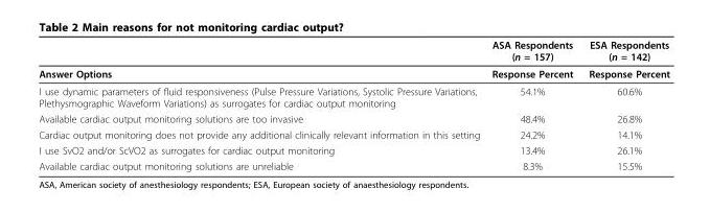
<table><thead><tr><td></td><td>ASA Respondents (n = 157)</td><td>ESA Respondents (n = 142)</td></tr></thead><tbody><tr><td>Answer Options</td><td>Response Percent</td><td>Response Percent</td></tr><tr><td>I use dynamic parameters of fluid responsiveness (Pulse Pressure Variations, Systolic Pressure Variations, Plethysmographic Waveform Variations) as surrogates for cardiac output monitoring</td><td>54.1%</td><td>60.6%</td></tr><tr><td>Available cardiac output monitoring solutions are too invasive</td><td>48.4%</td><td>26.8%</td></tr><tr><td>Cardiac output monitoring does not provide any additional clinically relevant information in this setting</td><td>24.2%</td><td>14.1%</td></tr><tr><td>I use SvO2 and/or ScVO2 as surrogates for cardiac output monitoring</td><td>13.4%</td><td>26.1%</td></tr><tr><td>Available cardiac output monitoring solutions are unreliable</td><td>8.3%</td><td>15.5%</td></tr></tbody></table>